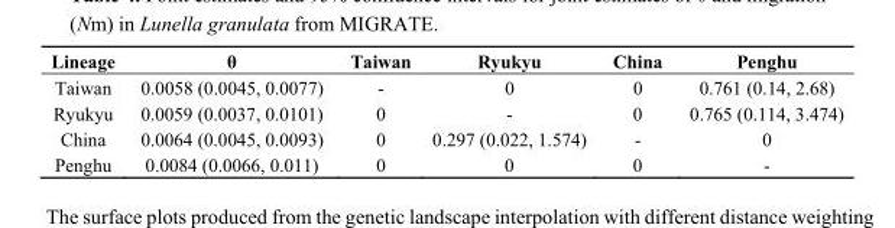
<table><thead><tr><td>Lineage</td><td>θ</td><td>Taiwan</td><td>Ryukyu</td><td>China</td><td>Penghu</td></tr></thead><tbody><tr><td>Taiwan</td><td>0.0058 (0.0045, 0.0077)</td><td>-</td><td>0</td><td>0</td><td>0.761 (0.14, 2.68)</td></tr><tr><td>Ryukyu</td><td>0.0059 (0.0037, 0.0101)</td><td>0</td><td>-</td><td>0</td><td>0.765 (0.114, 3.474)</td></tr><tr><td>China</td><td>0.0064 (0.0045, 0.0093)</td><td>0</td><td>0.297 (0.022, 1.574)</td><td>-</td><td>0</td></tr><tr><td>Penghu</td><td>0.0084 (0.0066, 0.011)</td><td>0</td><td>0</td><td>0</td><td>-</td></tr></tbody></table>